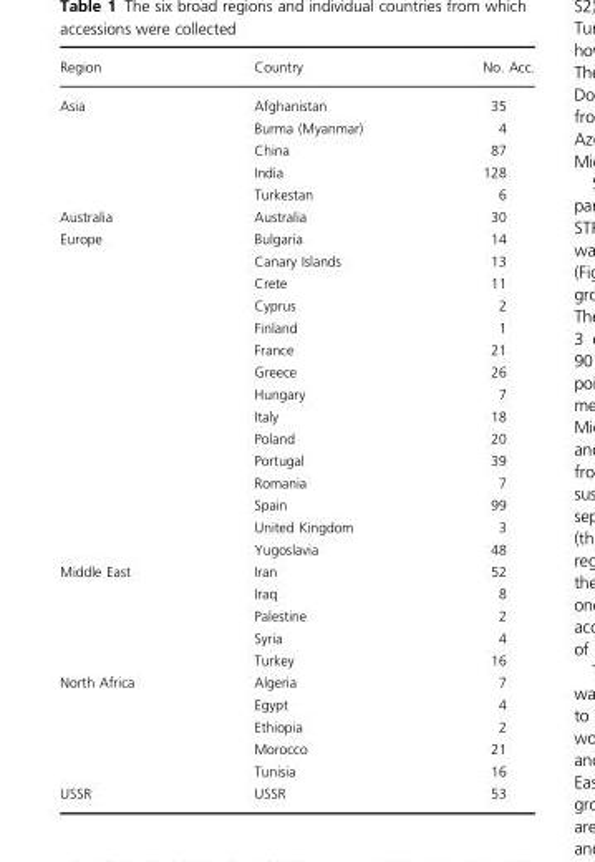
<table><thead><tr><td>Region</td><td>Country</td><td>No. Acc.</td></tr></thead><tbody><tr><td rowspan="5">Asia</td><td>Afghanistan</td><td>35</td></tr><tr><td>Burma (Myanmar)</td><td>4</td></tr><tr><td>China</td><td>87</td></tr><tr><td>India</td><td>128</td></tr><tr><td>Turkestan</td><td>6</td></tr><tr><td>Australia</td><td>Australia</td><td>30</td></tr><tr><td rowspan="15">Europe</td><td>Bulgaria</td><td>14</td></tr><tr><td>Canary Islands</td><td>13</td></tr><tr><td>Crete</td><td>11</td></tr><tr><td>Cyprus</td><td>2</td></tr><tr><td>Finland</td><td>1</td></tr><tr><td>France</td><td>21</td></tr><tr><td>Greece</td><td>26</td></tr><tr><td>Hungary</td><td>7</td></tr><tr><td>Italy</td><td>18</td></tr><tr><td>Poland</td><td>20</td></tr><tr><td>Portugal</td><td>39</td></tr><tr><td>Romania</td><td>7</td></tr><tr><td>Spain</td><td>99</td></tr><tr><td>United Kingdom</td><td>3</td></tr><tr><td>Yugoslavia</td><td>48</td></tr><tr><td rowspan="5">Middle East</td><td>Iran</td><td>52</td></tr><tr><td>Iraq</td><td>8</td></tr><tr><td>Palestine</td><td>2</td></tr><tr><td>Syria</td><td>4</td></tr><tr><td>Turkey</td><td>16</td></tr><tr><td rowspan="5">North Africa</td><td>Algeria</td><td>7</td></tr><tr><td>Egypt</td><td>4</td></tr><tr><td>Ethiopia</td><td>2</td></tr><tr><td>Morocco</td><td>21</td></tr><tr><td>Tunisia</td><td>16</td></tr><tr><td>USSR</td><td>USSR</td><td>53</td></tr></tbody></table>